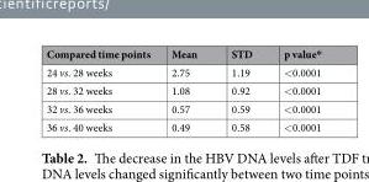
<table><thead><tr><td>Compared time points</td><td>Mean</td><td>STD</td><td>p value*</td></tr></thead><tbody><tr><td>24 vs. 28 weeks</td><td>2.75</td><td>1.19</td><td>&lt;0.0001</td></tr><tr><td>28 vs. 32 weeks</td><td>1.08</td><td>0.92</td><td>&lt;0.0001</td></tr><tr><td>32 vs. 36 weeks</td><td>0.57</td><td>0.59</td><td>&lt;0.0001</td></tr><tr><td>36 vs. 40 weeks</td><td>0.49</td><td>0.58</td><td>&lt;0.0001</td></tr></tbody></table>